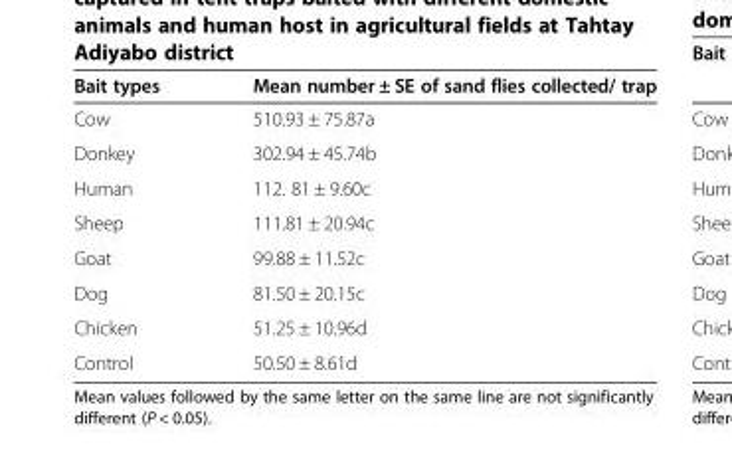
<table><thead><tr><td>Bait types</td><td>Mean number ± SE of sand flies collected/ trap</td></tr></thead><tbody><tr><td>Cow</td><td>510.93 ± 75.87a</td></tr><tr><td>Donkey</td><td>302.94 ± 45.74b</td></tr><tr><td>Human</td><td>112. 81 ± 9.60c</td></tr><tr><td>Sheep</td><td>111.81 ± 20.94c</td></tr><tr><td>Goat</td><td>99.88 ± 11.52c</td></tr><tr><td>Dog</td><td>81.50 ± 20.15c</td></tr><tr><td>Chicken</td><td>51.25 ± 10.96d</td></tr><tr><td>Control</td><td>50.50 ± 8.61d</td></tr></tbody></table>